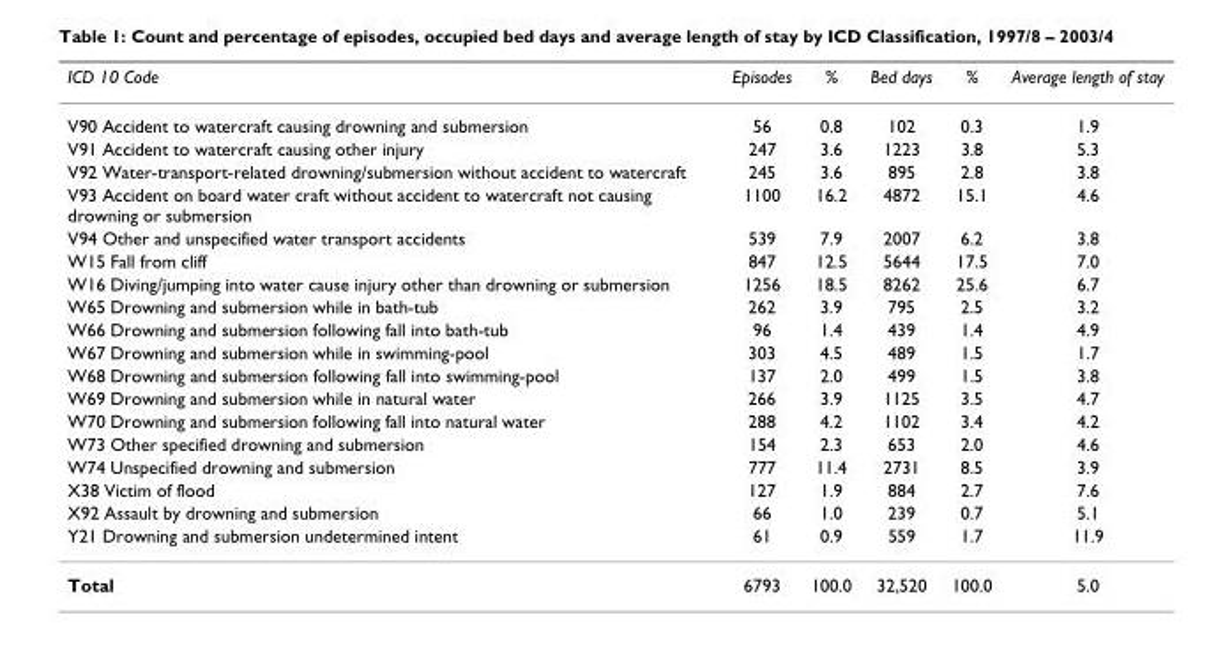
<table><thead><tr><td>ICD 10 Code</td><td>Episodes</td><td>%</td><td>Bed days</td><td>%</td><td>Average length of stay</td></tr></thead><tbody><tr><td>V90 Accident to watercraft causing drowning and submersion</td><td>56</td><td>0.8</td><td>102</td><td>0.3</td><td>1.9</td></tr><tr><td>V91 Accident to watercraft causing other injury</td><td>247</td><td>3.6</td><td>1223</td><td>3.8</td><td>5.3</td></tr><tr><td>V92 Water-transport-related drowning/submersion without accident to watercraft</td><td>245</td><td>3.6</td><td>895</td><td>2.8</td><td>3.8</td></tr><tr><td>V93 Accident on board water craft without accident to watercraft not causing drowning or submersion</td><td>1100</td><td>16.2</td><td>4872</td><td>15.1</td><td>4.6</td></tr><tr><td>V94 Other and unspecified water transport accidents</td><td>539</td><td>7.9</td><td>2007</td><td>6.2</td><td>3.8</td></tr><tr><td>W15 Fall from cliff</td><td>847</td><td>12.5</td><td>5644</td><td>17.5</td><td>7.0</td></tr><tr><td>W16 Diving/jumping into water cause injury other than drowning or submersion</td><td>1256</td><td>18.5</td><td>8262</td><td>25.6</td><td>6.7</td></tr><tr><td>W65 Drowning and submersion while in bath-tub</td><td>262</td><td>3.9</td><td>795</td><td>2.5</td><td>3.2</td></tr><tr><td>W66 Drowning and submersion following fall into bath-tub</td><td>96</td><td>1.4</td><td>439</td><td>1.4</td><td>4.9</td></tr><tr><td>W67 Drowning and submersion while in swimming-pool</td><td>303</td><td>4.5</td><td>489</td><td>1.5</td><td>1.7</td></tr><tr><td>W68 Drowning and submersion following fall into swimming-pool</td><td>137</td><td>2.0</td><td>499</td><td>1.5</td><td>3.8</td></tr><tr><td>W69 Drowning and submersion while in natural water</td><td>266</td><td>3.9</td><td>1125</td><td>3.5</td><td>4.7</td></tr><tr><td>W70 Drowning and submersion following fall into natural water</td><td>288</td><td>4.2</td><td>1102</td><td>3.4</td><td>4.2</td></tr><tr><td>W73 Other specified drowning and submersion</td><td>154</td><td>2.3</td><td>653</td><td>2.0</td><td>4.6</td></tr><tr><td>W74 Unspecified drowning and submersion</td><td>777</td><td>11.4</td><td>2731</td><td>8.5</td><td>3.9</td></tr><tr><td>X38 Victim of flood</td><td>127</td><td>1.9</td><td>884</td><td>2.7</td><td>7.6</td></tr><tr><td>X92 Assault by drowning and submersion</td><td>66</td><td>1.0</td><td>239</td><td>0.7</td><td>5.1</td></tr><tr><td>Y21 Drowning and submersion undetermined intent</td><td>61</td><td>0.9</td><td>559</td><td>1.7</td><td>11.9</td></tr><tr><td>Total</td><td>6793</td><td>100.0</td><td>32,520</td><td>100.0</td><td>5.0</td></tr></tbody></table>